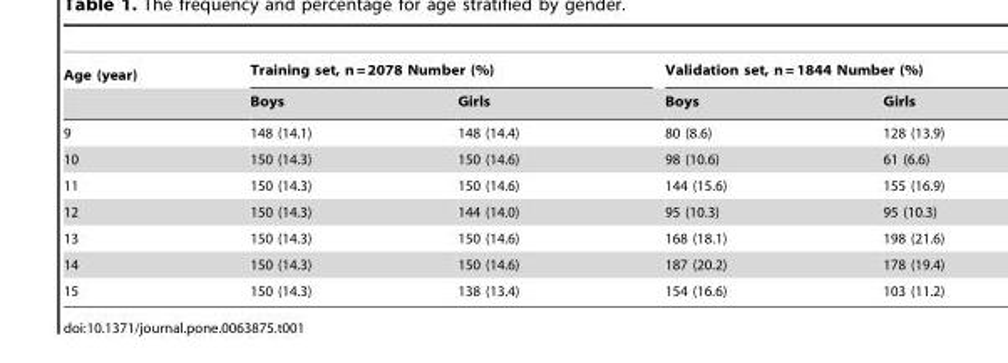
<table><thead><tr><td rowspan="2">Age (year)</td><td colspan="2">Training set, n = 2078 Number (%)</td><td colspan="2">Validation set, n = 1844 Number (%)</td></tr><tr><td>Boys</td><td>Girls</td><td>Boys</td><td>Girls</td></tr></thead><tbody><tr><td>9</td><td>148 (14.1)</td><td>148 (14.4)</td><td>80 (8.6)</td><td>128 (13.9)</td></tr><tr><td>10</td><td>150 (14.3)</td><td>150 (14.6)</td><td>98 (10.6)</td><td>61 (6.6)</td></tr><tr><td>11</td><td>150 (14.3)</td><td>150 (14.6)</td><td>144 (15.6)</td><td>155 (16.9)</td></tr><tr><td>12</td><td>150 (14.3)</td><td>144 (14.0)</td><td>95 (10.3)</td><td>95 (10.3)</td></tr><tr><td>13</td><td>150 (14.3)</td><td>150 (14.6)</td><td>168 (18.1)</td><td>198 (21.6)</td></tr><tr><td>14</td><td>150 (14.3)</td><td>150 (14.6)</td><td>187 (20.2)</td><td>178 (19.4)</td></tr><tr><td>15</td><td>150 (14.3)</td><td>138 (13.4)</td><td>154 (16.6)</td><td>103 (11.2)</td></tr></tbody></table>